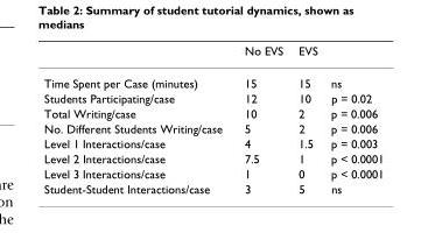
<table><thead><tr><td></td><td>No EVS</td><td>EVS</td><td></td></tr></thead><tbody><tr><td>Time Spent per Case (minutes)</td><td>15</td><td>15</td><td>ns</td></tr><tr><td>Students Participating/case</td><td>12</td><td>10</td><td>p = 0.02</td></tr><tr><td>Total Writing/case</td><td>10</td><td>2</td><td>p = 0.006</td></tr><tr><td>No. Different Students Writing/case</td><td>5</td><td>2</td><td>p = 0.006</td></tr><tr><td>Level 1 Interactions/case</td><td>4</td><td>1.5</td><td>p = 0.003</td></tr><tr><td>Level 2 Interactions/case</td><td>7.5</td><td>1</td><td>p &lt; 0.0001</td></tr><tr><td>Level 3 Interactions/case</td><td>1</td><td>0</td><td>p &lt; 0.0001</td></tr><tr><td>Student-Student Interactions/case</td><td>3</td><td>5</td><td>ns</td></tr></tbody></table>